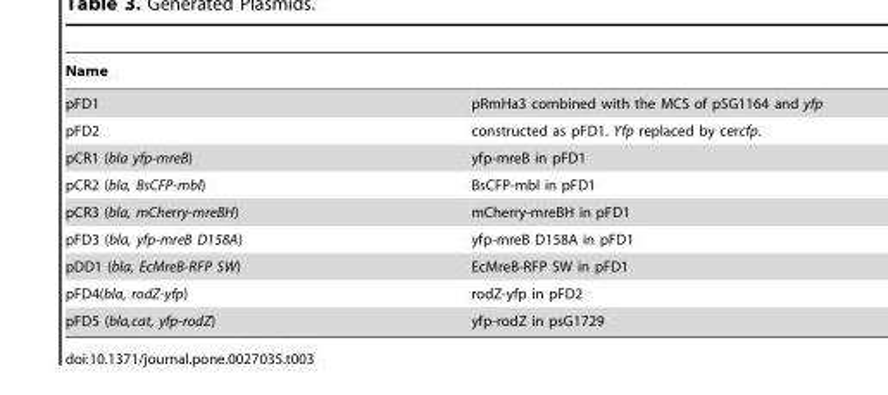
<table><thead><tr><td>Name</td><td></td></tr></thead><tbody><tr><td>pFD1</td><td>pRmHa3 combined with the MCS of pSG1164 and yfp</td></tr><tr><td>pFD2</td><td>constructed as pFD1. Yfp replaced by cercfp.</td></tr><tr><td>pCR1 (bla yfp-mreB)</td><td>yfp-mreB in pFD1</td></tr><tr><td>pCR2 (bla, BsCFP-mbl)</td><td>BsCFP-mbl in pFD1</td></tr><tr><td>pCR3 (bla, mCherry-mreBH)</td><td>mCherry-mreBH in pFD1</td></tr><tr><td>pFD3 (bla, yfp-mreB D158A)</td><td>yfp-mreB D158A in pFD1</td></tr><tr><td>pDD1 (bla, EcMreB-RFP SW)</td><td>EcMreB-RFP SW in pFD1</td></tr><tr><td>pFD4(bla, rodZ-yfp)</td><td>rodZ-yfp in pFD2</td></tr><tr><td>pFD5 (bla,cat, yfp-rodZ)</td><td>yfp-rodZ in psG1729</td></tr></tbody></table>